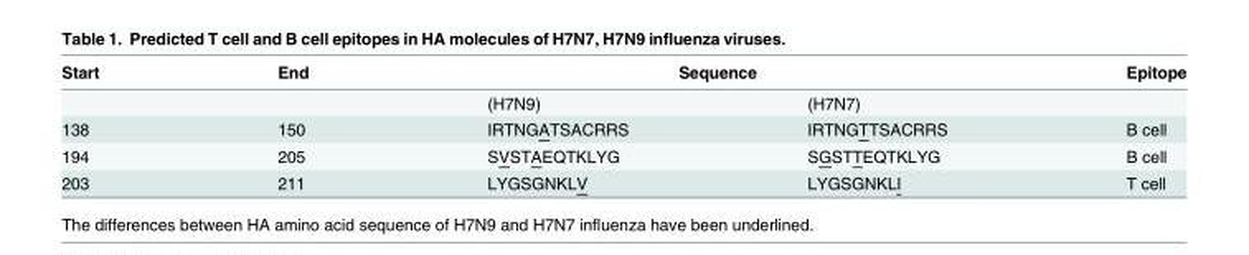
<table><thead><tr><td rowspan="2">Start</td><td rowspan="2">End</td><td colspan="2">Sequence</td><td rowspan="2">Epitope</td></tr><tr><td>(H7N9)</td><td>(H7N7)</td></tr></thead><tbody><tr><td>138</td><td>150</td><td>IRTNGATSACRRS</td><td>IRTNGTTSACRRS</td><td>B cell</td></tr><tr><td>194</td><td>205</td><td>SVSTAEQTKLYG</td><td>SGSTTEQTKLYG</td><td>B cell</td></tr><tr><td>203</td><td>211</td><td>LYGSGNKLV</td><td>LYGSGNKLI</td><td>T cell</td></tr></tbody></table>